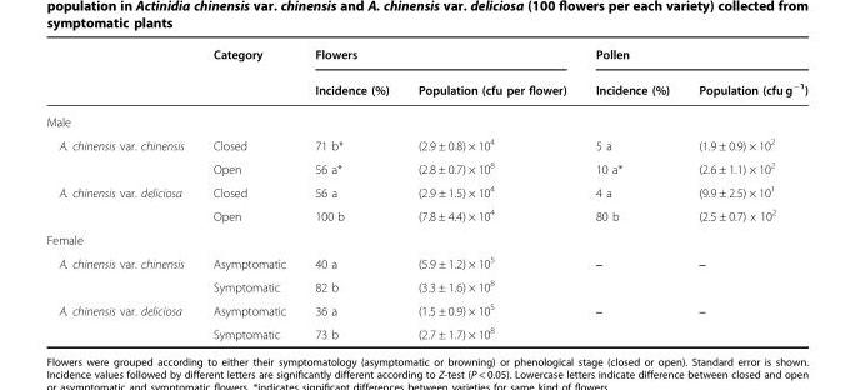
<table><thead><tr><td rowspan="2"></td><td rowspan="2">Category</td><td colspan="2">Flowers</td><td colspan="2">Pollen</td></tr><tr><td>Incidence (%)</td><td>Population (cfu per flower)</td><td>Incidence (%)</td><td>Population (cfu g<sup>−1</sup>)</td></tr></thead><tbody><tr><td colspan="6">Male</td></tr><tr><td rowspan="2">A. chinensis var. chinensis</td><td>Closed</td><td>71 b*</td><td>(2.9 ± 0.8) × 10<sup>4</sup></td><td>5 a</td><td>(1.9 ± 0.9) × 10<sup>2</sup></td></tr><tr><td>Open</td><td>56 a*</td><td>(2.8 ± 0.7) × 10<sup>8</sup></td><td>10 a*</td><td>(2.6 ± 1.1) × 10<sup>2</sup></td></tr><tr><td rowspan="2">A. chinensis var. deliciosa</td><td>Closed</td><td>56 a</td><td>(2.9 ± 1.5) × 10<sup>4</sup></td><td>4 a</td><td>(9.9 ± 2.5) × 10<sup>1</sup></td></tr><tr><td>Open</td><td>100 b</td><td>(7.8 ± 4.4) × 10<sup>4</sup></td><td>80 b</td><td>(2.5 ± 0.7) x 10<sup>2</sup></td></tr><tr><td colspan="6">Female</td></tr><tr><td rowspan="2">A. chinensis var. chinensis</td><td>Asymptomatic</td><td>40 a</td><td>(5.9 ± 1.2) × 10<sup>5</sup></td><td>‒</td><td>‒</td></tr><tr><td>Symptomatic</td><td>82 b</td><td>(3.3 ± 1.6) × 10<sup>8</sup></td><td></td><td></td></tr><tr><td rowspan="2">A. chinensis var. deliciosa</td><td>Asymptomatic</td><td>36 a</td><td>(1.5 ± 0.9) × 10<sup>5</sup></td><td>‒</td><td>‒</td></tr><tr><td>Symptomatic</td><td>73 b</td><td>(2.7 ± 1.7) × 10<sup>8</sup></td><td></td><td></td></tr></tbody></table>